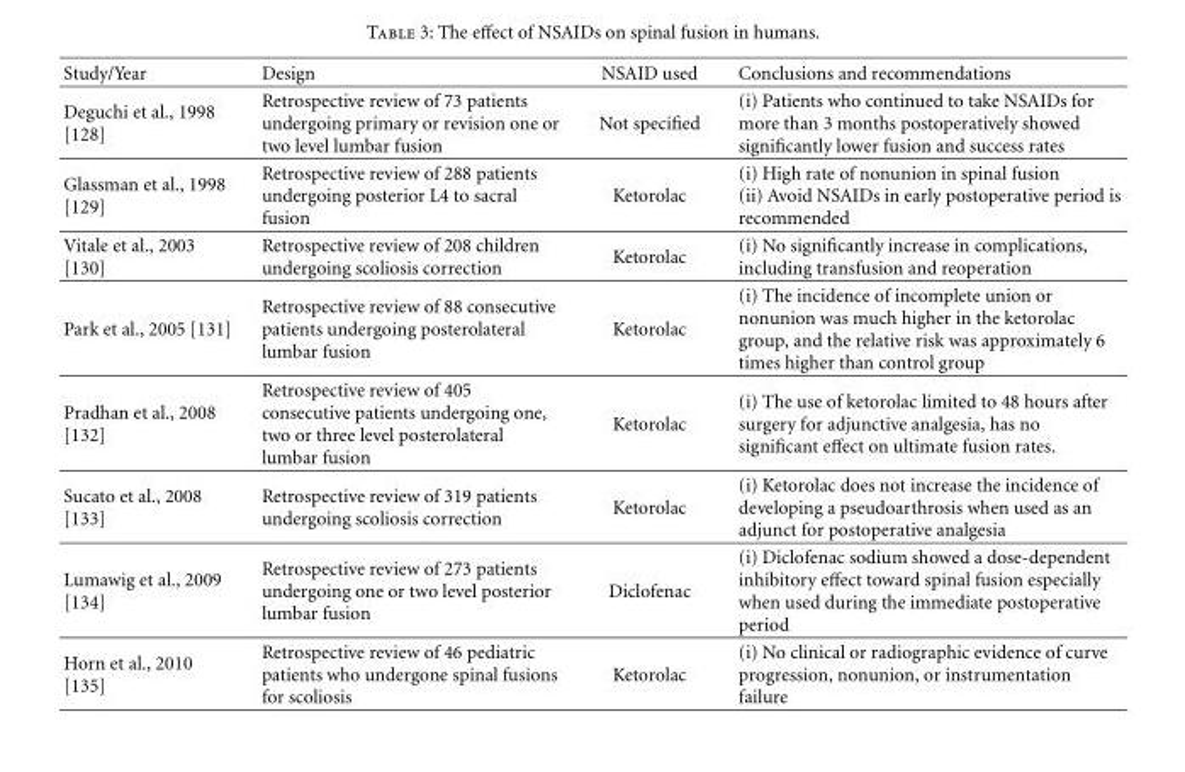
<table><thead><tr><td>Study/Year</td><td>Design</td><td>NSAID used</td><td>Conclusions and recommendations</td></tr></thead><tbody><tr><td>Deguchi et al., 1998 [128]</td><td>Retrospective review of 73 patients undergoing primary or revision one or two level lumbar fusion</td><td>Not specified</td><td>(i) Patients who continued to take NSAIDs for more than 3 months postoperatively showed significantly lower fusion and success rates</td></tr><tr><td>Glassman et al., 1998 [129]</td><td>Retrospective review of 288 patients undergoing posterior L4 to sacral fusion</td><td>Ketorolac</td><td>(i) High rate of nonunion in spinal fusion (ii) Avoid NSAIDs in early postoperative period is recommended</td></tr><tr><td>Vitale et al., 2003 [130]</td><td>Retrospective review of 208 children undergoing scoliosis correction</td><td>Ketorolac</td><td>(i) No significantly increase in complications, including transfusion and reoperation</td></tr><tr><td>Park et al., 2005 [131]</td><td>Retrospective review of 88 consecutive patients undergoing posterolateral lumbar fusion</td><td>Ketorolac</td><td>(i) The incidence of incomplete union or nonunion was much higher in the ketorolac group, and the relative risk was approximately 6 times higher than control group</td></tr><tr><td>Pradhan et al., 2008 [132]</td><td>Retrospective review of 405 consecutive patients undergoing one, two or three level posterolateral lumbar fusion</td><td>Ketorolac</td><td>(i) The use of ketorolac limited to 48 hours after surgery for adjunctive analgesia, has no significant effect on ultimate fusion rates.</td></tr><tr><td>Sucato et al., 2008 [133]</td><td>Retrospective review of 319 patients undergoing scoliosis correction</td><td>Ketorolac</td><td>(i) Ketorolac does not increase the incidence of developing a pseudoarthrosis when used as an adjunct for postoperative analgesia</td></tr><tr><td>Lumawig et al., 2009 [134]</td><td>Retrospective review of 273 patients undergoing one or two level posterior lumbar fusion</td><td>Diclofenac</td><td>(i) Diclofenac sodium showed a dose-dependent inhibitory effect toward spinal fusion especially when used during the immediate postoperative period</td></tr><tr><td>Horn et al., 2010 [135]</td><td>Retrospective review of 46 pediatric patients who undergone spinal fusions for scoliosis</td><td>Ketorolac</td><td>(i) No clinical or radiographic evidence of curve progression, nonunion, or instrumentation failure</td></tr></tbody></table>